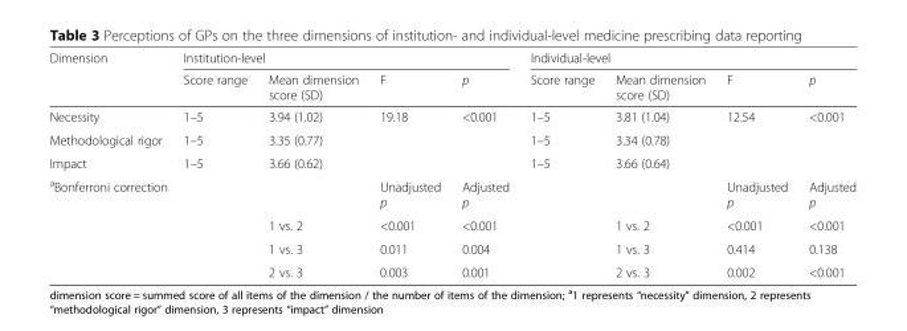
<table><thead><tr><td rowspan="2">Dimension</td><td colspan="4">Institution-level</td><td colspan="4">Individual-level</td></tr><tr><td>Score range</td><td>Mean dimension score (SD)</td><td>F</td><td>p</td><td>Score range</td><td>Mean dimension score (SD)</td><td>F</td><td>p</td></tr></thead><tbody><tr><td>Necessity</td><td>1–5</td><td>3.94 (1.02)</td><td rowspan="3">19.18</td><td rowspan="3">&lt;0.001</td><td>1–5</td><td>3.81 (1.04)</td><td rowspan="3">12.54</td><td rowspan="3">&lt;0.001</td></tr><tr><td>Methodological rigor</td><td>1–5</td><td>3.35 (0.77)</td><td>1–5</td><td>3.34 (0.78)</td></tr><tr><td>Impact</td><td>1–5</td><td>3.66 (0.62)</td><td>1–5</td><td>3.66 (0.64)</td></tr><tr><td rowspan="4" colspan="2"><sup>a</sup>Bonferroni correction</td><td></td><td>Unadjusted p</td><td>Adjusted p</td><td></td><td></td><td>Unadjusted p</td><td>Adjusted p</td></tr><tr><td>1 vs. 2</td><td>&lt;0.001</td><td>&lt;0.001</td><td></td><td>1 vs. 2</td><td>&lt;0.001</td><td>&lt;0.001</td></tr><tr><td>1 vs. 3</td><td>0.011</td><td>0.004</td><td></td><td>1 vs. 3</td><td>0.414</td><td>0.138</td></tr><tr><td>2 vs. 3</td><td>0.003</td><td>0.001</td><td></td><td>2 vs. 3</td><td>0.002</td><td>&lt;0.001</td></tr></tbody></table>